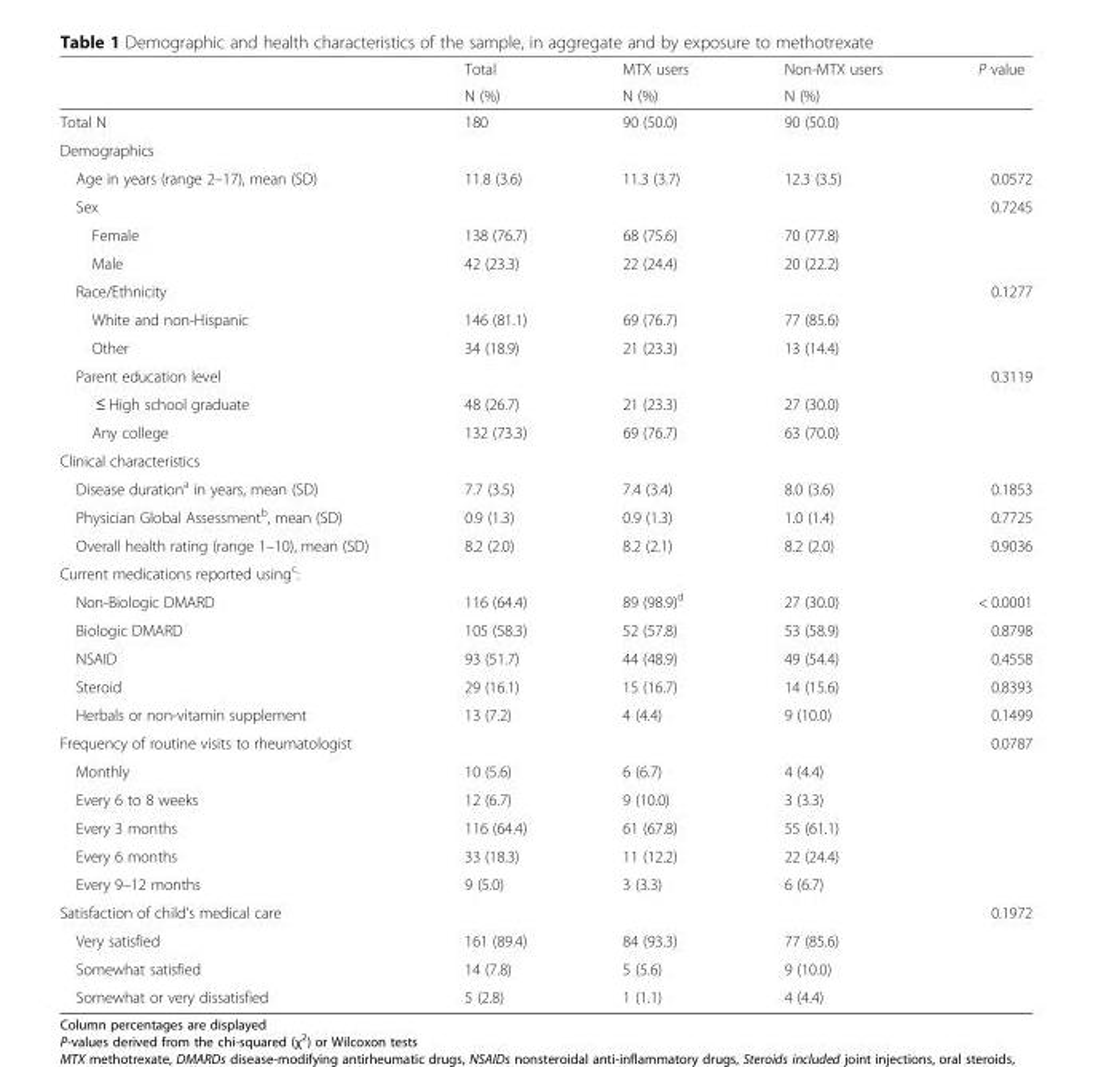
<table><thead><tr><td rowspan="2"></td><td rowspan="2">Total N (%)</td><td rowspan="2">MTX users N (%)</td><td rowspan="2">Non-MTX users N (%)</td><td rowspan="2">P value</td></tr><tr></tr></thead><tbody><tr><td>Total N</td><td>180</td><td>90 (50.0)</td><td>90 (50.0)</td><td></td></tr><tr><td colspan="5">Demographics</td></tr><tr><td>Age in years (range 2–17), mean (SD)</td><td>11.8 (3.6)</td><td>11.3 (3.7)</td><td>12.3 (3.5)</td><td>0.0572</td></tr><tr><td>Sex</td><td></td><td></td><td></td><td>0.7245</td></tr><tr><td>Female</td><td>138 (76.7)</td><td>68 (75.6)</td><td>70 (77.8)</td><td></td></tr><tr><td>Male</td><td>42 (23.3)</td><td>22 (24.4)</td><td>20 (22.2)</td><td></td></tr><tr><td>Race/Ethnicity</td><td></td><td></td><td></td><td>0.1277</td></tr><tr><td>White and non-Hispanic</td><td>146 (81.1)</td><td>69 (76.7)</td><td>77 (85.6)</td><td></td></tr><tr><td>Other</td><td>34 (18.9)</td><td>21 (23.3)</td><td>13 (14.4)</td><td></td></tr><tr><td>Parent education level</td><td></td><td></td><td></td><td>0.3119</td></tr><tr><td>≤ High school graduate</td><td>48 (26.7)</td><td>21 (23.3)</td><td>27 (30.0)</td><td></td></tr><tr><td>Any college</td><td>132 (73.3)</td><td>69 (76.7)</td><td>63 (70.0)</td><td></td></tr><tr><td colspan="5">Clinical characteristics</td></tr><tr><td>Disease duration<sup>a</sup> in years, mean (SD)</td><td>7.7 (3.5)</td><td>7.4 (3.4)</td><td>8.0 (3.6)</td><td>0.1853</td></tr><tr><td>Physician Global Assessment<sup>b</sup>, mean (SD)</td><td>0.9 (1.3)</td><td>0.9 (1.3)</td><td>1.0 (1.4)</td><td>0.7725</td></tr><tr><td>Overall health rating (range 1–10), mean (SD)</td><td>8.2 (2.0)</td><td>8.2 (2.1)</td><td>8.2 (2.0)</td><td>0.9036</td></tr><tr><td colspan="5">Current medications reported using<sup>c</sup>:</td></tr><tr><td>Non-Biologic DMARD</td><td>116 (64.4)</td><td>89 (98.9)<sup>d</sup></td><td>27 (30.0)</td><td>&lt; 0.0001</td></tr><tr><td>Biologic DMARD</td><td>105 (58.3)</td><td>52 (57.8)</td><td>53 (58.9)</td><td>0.8798</td></tr><tr><td>NSAID</td><td>93 (51.7)</td><td>44 (48.9)</td><td>49 (54.4)</td><td>0.4558</td></tr><tr><td>Steroid</td><td>29 (16.1)</td><td>15 (16.7)</td><td>14 (15.6)</td><td>0.8393</td></tr><tr><td>Herbals or non-vitamin supplement</td><td>13 (7.2)</td><td>4 (4.4)</td><td>9 (10.0)</td><td>0.1499</td></tr><tr><td>Frequency of routine visits to rheumatologist</td><td></td><td></td><td></td><td>0.0787</td></tr><tr><td>Monthly</td><td>10 (5.6)</td><td>6 (6.7)</td><td>4 (4.4)</td><td></td></tr><tr><td>Every 6 to 8 weeks</td><td>12 (6.7)</td><td>9 (10.0)</td><td>3 (3.3)</td><td></td></tr><tr><td>Every 3 months</td><td>116 (64.4)</td><td>61 (67.8)</td><td>55 (61.1)</td><td></td></tr><tr><td>Every 6 months</td><td>33 (18.3)</td><td>11 (12.2)</td><td>22 (24.4)</td><td></td></tr><tr><td>Every 9–12 months</td><td>9 (5.0)</td><td>3 (3.3)</td><td>6 (6.7)</td><td></td></tr><tr><td>Satisfaction of child’s medical care</td><td></td><td></td><td></td><td>0.1972</td></tr><tr><td>Very satisfied</td><td>161 (89.4)</td><td>84 (93.3)</td><td>77 (85.6)</td><td></td></tr><tr><td>Somewhat satisfied</td><td>14 (7.8)</td><td>5 (5.6)</td><td>9 (10.0)</td><td></td></tr><tr><td>Somewhat or very dissatisfied</td><td>5 (2.8)</td><td>1 (1.1)</td><td>4 (4.4)</td><td></td></tr></tbody></table>